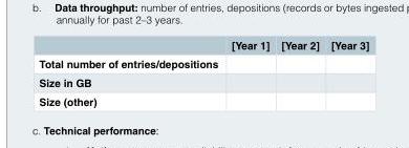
<table><thead><tr><td></td><td>[Year 1]</td><td>[Year 2]</td><td>[Year 3]</td></tr></thead><tbody><tr><td colspan="4">Total number of entries/depositions</td></tr><tr><td colspan="4">Size in GB</td></tr><tr><td>Size (other)</td><td></td><td></td><td></td></tr></tbody></table>